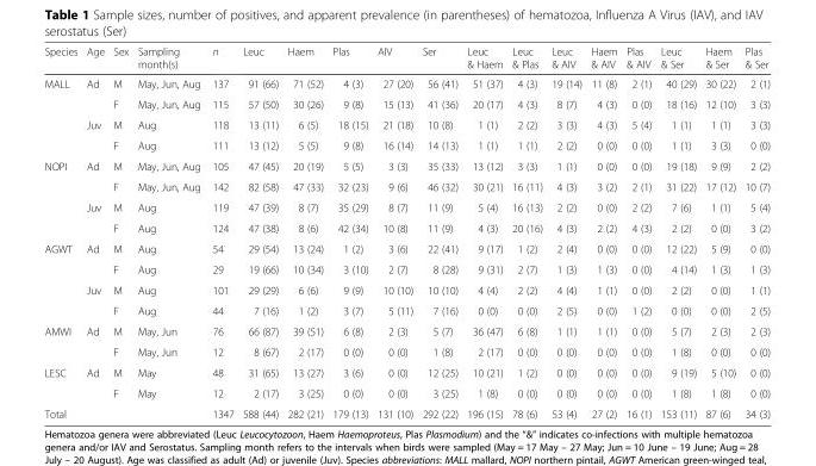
<table><thead><tr><td>Species</td><td>Age</td><td>Sex</td><td>Sampling month(s)</td><td>n</td><td>Leuc</td><td>Haem</td><td>Plas</td><td>AIV</td><td>Ser</td><td>Leuc &amp; Haem</td><td>Leuc &amp; Plas</td><td>Leuc &amp; AIV</td><td>Haem &amp; AIV</td><td>Plas &amp; AIV</td><td>Leuc &amp; Ser</td><td>Haem &amp; Ser</td><td>Plas &amp; Ser</td></tr></thead><tbody><tr><td rowspan="4">MALL</td><td>Ad</td><td>M</td><td>May, Jun, Aug</td><td>137</td><td>91 (66)</td><td>71 (52)</td><td>4 (3)</td><td>27 (20)</td><td>56 (41)</td><td>51 (37)</td><td>4 (3)</td><td>19 (14)</td><td>11 (8)</td><td>2 (1)</td><td>40 (29)</td><td>30 (22)</td><td>2 (1)</td></tr><tr><td></td><td>F</td><td>May, Jun, Aug</td><td>115</td><td>57 (50)</td><td>30 (26)</td><td>9 (8)</td><td>15 (13)</td><td>41 (36)</td><td>20 (17)</td><td>4 (3)</td><td>8 (7)</td><td>4 (3)</td><td>0 (0)</td><td>18 (16)</td><td>12 (10)</td><td>3 (3)</td></tr><tr><td>Juv</td><td>M</td><td>Aug</td><td>118</td><td>13 (11)</td><td>6 (5)</td><td>18 (15)</td><td>21 (18)</td><td>10 (8)</td><td>1 (1)</td><td>2 (2)</td><td>3 (3)</td><td>4 (3)</td><td>5 (4)</td><td>1 (1)</td><td>1 (1)</td><td>3 (3)</td></tr><tr><td></td><td>F</td><td>Aug</td><td>111</td><td>13 (12)</td><td>5 (5)</td><td>9 (8)</td><td>16 (14)</td><td>14 (13)</td><td>1 (1)</td><td>1 (1)</td><td>2 (2)</td><td>0 (0)</td><td>0 (0)</td><td>1 (1)</td><td>3 (3)</td><td>0 (0)</td></tr><tr><td rowspan="4">NOPI</td><td>Ad</td><td>M</td><td>May, Jun, Aug</td><td>105</td><td>47 (45)</td><td>20 (19)</td><td>5 (5)</td><td>3 (3)</td><td>35 (33)</td><td>13 (12)</td><td>3 (3)</td><td>1 (1)</td><td>0 (0)</td><td>0 (0)</td><td>19 (18)</td><td>9 (9)</td><td>2 (2)</td></tr><tr><td></td><td>F</td><td>May, Jun, Aug</td><td>142</td><td>82 (58)</td><td>47 (33)</td><td>32 (23)</td><td>9 (6)</td><td>46 (32)</td><td>30 (21)</td><td>16 (11)</td><td>4 (3)</td><td>3 (2)</td><td>2 (1)</td><td>31 (22)</td><td>17 (12)</td><td>10 (7)</td></tr><tr><td>Juv</td><td>M</td><td>Aug</td><td>119</td><td>47 (39)</td><td>8 (7)</td><td>35 (29)</td><td>8 (7)</td><td>11 (9)</td><td>5 (4)</td><td>16 (13)</td><td>2 (2)</td><td>0 (0)</td><td>2 (2)</td><td>7 (6)</td><td>1 (1)</td><td>5 (4)</td></tr><tr><td></td><td>F</td><td>Aug</td><td>124</td><td>47 (38)</td><td>8 (6)</td><td>42 (34)</td><td>10 (8)</td><td>11 (9)</td><td>4 (3)</td><td>20 (16)</td><td>4 (3)</td><td>2 (2)</td><td>4 (3)</td><td>2 (2)</td><td>0 (0)</td><td>3 (2)</td></tr><tr><td rowspan="4">AGWT</td><td>Ad</td><td>M</td><td>Aug</td><td>54</td><td>29 (54)</td><td>13 (24)</td><td>1 (2)</td><td>3 (6)</td><td>22 (41)</td><td>9 (17)</td><td>1 (2)</td><td>2 (4)</td><td>0 (0)</td><td>0 (0)</td><td>12 (22)</td><td>5 (9)</td><td>0 (0)</td></tr><tr><td></td><td>F</td><td>Aug</td><td>29</td><td>19 (66)</td><td>10 (34)</td><td>3 (10)</td><td>2 (7)</td><td>8 (28)</td><td>9 (31)</td><td>2 (7)</td><td>1 (3)</td><td>1 (3)</td><td>0 (0)</td><td>4 (14)</td><td>1 (3)</td><td>1 (3)</td></tr><tr><td>Juv</td><td>M</td><td>Aug</td><td>101</td><td>29 (29)</td><td>6 (6)</td><td>9 (9)</td><td>10 (10)</td><td>10 (10)</td><td>4 (4)</td><td>2 (2)</td><td>4 (4)</td><td>1 (1)</td><td>0 (0)</td><td>2 (2)</td><td>0 (0)</td><td>1 (1)</td></tr><tr><td></td><td>F</td><td>Aug</td><td>44</td><td>7 (16)</td><td>1 (2)</td><td>3 (7)</td><td>5 (11)</td><td>7 (16)</td><td>0 (0)</td><td>0 (0)</td><td>2 (5)</td><td>0 (0)</td><td>1 (2)</td><td>0 (0)</td><td>0 (0)</td><td>2 (5)</td></tr><tr><td rowspan="2">AMWI</td><td>Ad</td><td>M</td><td>May, Jun</td><td>76</td><td>66 (87)</td><td>39 (51)</td><td>6 (8)</td><td>2 (3)</td><td>5 (7)</td><td>36 (47)</td><td>6 (8)</td><td>1 (1)</td><td>1 (1)</td><td>0 (0)</td><td>5 (7)</td><td>2 (3)</td><td>2 (3)</td></tr><tr><td></td><td>F</td><td>May, Jun</td><td>12</td><td>8 (67)</td><td>2 (17)</td><td>0 (0)</td><td>0 (0)</td><td>1 (8)</td><td>2 (17)</td><td>0 (0)</td><td>0 (0)</td><td>0 (0)</td><td>0 (0)</td><td>1 (8)</td><td>0 (0)</td><td>0 (0)</td></tr><tr><td rowspan="2">LESC</td><td>Ad</td><td>M</td><td>May</td><td>48</td><td>31 (65)</td><td>13 (27)</td><td>3 (6)</td><td>0 (0)</td><td>12 (25)</td><td>10 (21)</td><td>1 (2)</td><td>0 (0)</td><td>0 (0)</td><td>0 (0)</td><td>9 (19)</td><td>5 (10)</td><td>0 (0)</td></tr><tr><td></td><td>F</td><td>May</td><td>12</td><td>2 (17)</td><td>3 (25)</td><td>0 (0)</td><td>0 (0)</td><td>3 (25)</td><td>1 (8)</td><td>0 (0)</td><td>0 (0)</td><td>0 (0)</td><td>0 (0)</td><td>1 (8)</td><td>1 (8)</td><td>0 (0)</td></tr><tr><td>Total</td><td></td><td></td><td></td><td>1347</td><td>588 (44)</td><td>282 (21)</td><td>179 (13)</td><td>131 (10)</td><td>292 (22)</td><td>196 (15)</td><td>78 (6)</td><td>53 (4)</td><td>27 (2)</td><td>16 (1)</td><td>153 (11)</td><td>87 (6)</td><td>34 (3)</td></tr></tbody></table>